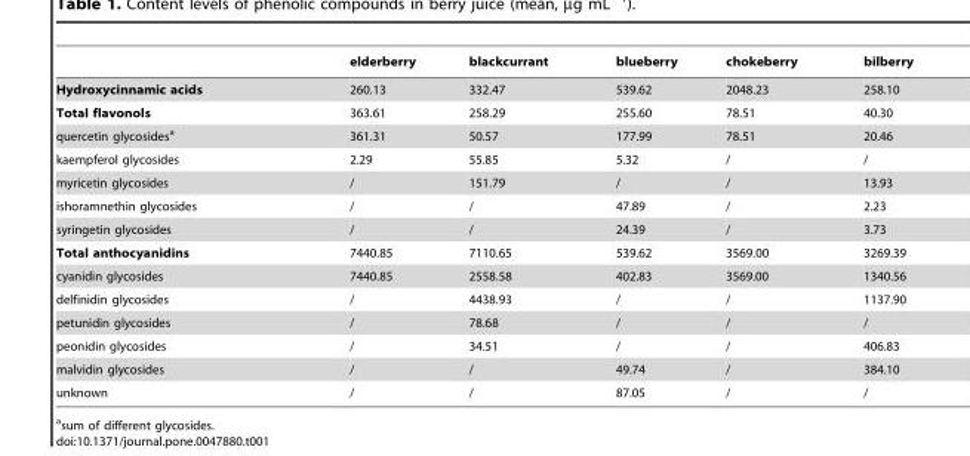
<table><thead><tr><td></td><td>elderberry</td><td>blackcurrant</td><td>blueberry</td><td>chokeberry</td><td>bilberry</td></tr></thead><tbody><tr><td>Hydroxycinnamic acids</td><td>260.13</td><td>332.47</td><td>539.62</td><td>2048.23</td><td>258.10</td></tr><tr><td>Total flavonols</td><td>363.61</td><td>258.29</td><td>255.60</td><td>78.51</td><td>40.30</td></tr><tr><td>quercetin glycosides<sup>a</sup></td><td>361.31</td><td>50.57</td><td>177.99</td><td>78.51</td><td>20.46</td></tr><tr><td>kaempferol glycosides</td><td>2.29</td><td>55.85</td><td>5.32</td><td>/</td><td>/</td></tr><tr><td>myricetin glycosides</td><td>/</td><td>151.79</td><td>/</td><td>/</td><td>13.93</td></tr><tr><td>ishoramnethin glycosides</td><td>/</td><td>/</td><td>47.89</td><td>/</td><td>2.23</td></tr><tr><td>syringetin glycosides</td><td>/</td><td>/</td><td>24.39</td><td>/</td><td>3.73</td></tr><tr><td>Total anthocyanidins</td><td>7440.85</td><td>7110.65</td><td>539.62</td><td>3569.00</td><td>3269.39</td></tr><tr><td>cyanidin glycosides</td><td>7440.85</td><td>2558.58</td><td>402.83</td><td>3569.00</td><td>1340.56</td></tr><tr><td>delfinidin glycosides</td><td>/</td><td>4438.93</td><td>/</td><td>/</td><td>1137.90</td></tr><tr><td>petunidin glycosides</td><td>/</td><td>78.68</td><td>/</td><td>/</td><td>/</td></tr><tr><td>peonidin glycosides</td><td>/</td><td>34.51</td><td>/</td><td>/</td><td>406.83</td></tr><tr><td>malvidin glycosides</td><td>/</td><td>/</td><td>49.74</td><td>/</td><td>384.10</td></tr><tr><td>unknown</td><td>/</td><td>/</td><td>87.05</td><td>/</td><td>/</td></tr></tbody></table>